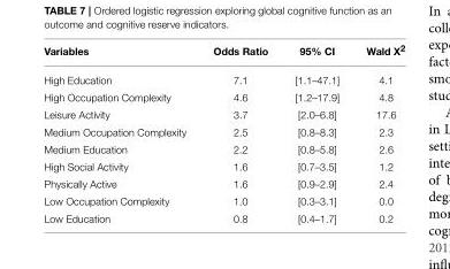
<table><thead><tr><td>Variables</td><td>Odds Ratio</td><td>95% CI</td><td>Wald X<sup>2</sup></td></tr></thead><tbody><tr><td>High Education</td><td>7.1</td><td>[1.1–47.1]</td><td>4.1</td></tr><tr><td>High Occupation Complexity</td><td>4.6</td><td>[1.2–17.9]</td><td>4.8</td></tr><tr><td>Leisure Activity</td><td>3.7</td><td>[2.0–6.8]</td><td>17.6</td></tr><tr><td>Medium Occupation Complexity</td><td>2.5</td><td>[0.8–8.3]</td><td>2.3</td></tr><tr><td>Medium Education</td><td>2.2</td><td>[0.8–5.8]</td><td>2.6</td></tr><tr><td>High Social Activity</td><td>1.6</td><td>[0.7–3.5]</td><td>1.2</td></tr><tr><td>Physically Active</td><td>1.6</td><td>[0.9–2.9]</td><td>2.4</td></tr><tr><td>Low Occupation Complexity</td><td>1.0</td><td>[0.3–3.1]</td><td>0.0</td></tr><tr><td>Low Education</td><td>0.8</td><td>[0.4–1.7]</td><td>0.2</td></tr></tbody></table>